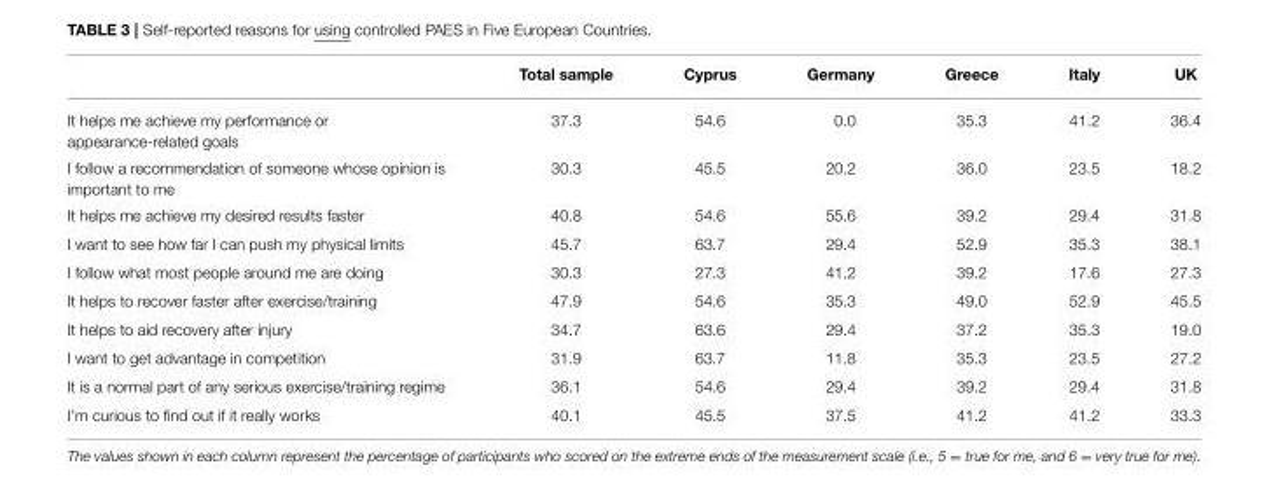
<table><thead><tr><td></td><td>Total sample</td><td>Cyprus</td><td>Germany</td><td>Greece</td><td>Italy</td><td>UK</td></tr></thead><tbody><tr><td>It helps me achieve my performance or appearance-related goals</td><td>37.3</td><td>54.6</td><td>0.0</td><td>35.3</td><td>41.2</td><td>36.4</td></tr><tr><td>I follow a recommendation of someone whose opinion is important to me</td><td>30.3</td><td>45.5</td><td>20.2</td><td>36.0</td><td>23.5</td><td>18.2</td></tr><tr><td>It helps me achieve my desired results faster</td><td>40.8</td><td>54.6</td><td>55.6</td><td>39.2</td><td>29.4</td><td>31.8</td></tr><tr><td>I want to see how far I can push my physical limits</td><td>45.7</td><td>63.7</td><td>29.4</td><td>52.9</td><td>35.3</td><td>38.1</td></tr><tr><td>I follow what most people around me are doing</td><td>30.3</td><td>27.3</td><td>41.2</td><td>39.2</td><td>17.6</td><td>27.3</td></tr><tr><td>It helps to recover faster after exercise/training</td><td>47.9</td><td>54.6</td><td>35.3</td><td>49.0</td><td>52.9</td><td>45.5</td></tr><tr><td>It helps to aid recovery after injury</td><td>34.7</td><td>63.6</td><td>29.4</td><td>37.2</td><td>35.3</td><td>19.0</td></tr><tr><td>I want to get advantage in competition</td><td>31.9</td><td>63.7</td><td>11.8</td><td>35.3</td><td>23.5</td><td>27.2</td></tr><tr><td>It is a normal part of any serious exercise/training regime</td><td>36.1</td><td>54.6</td><td>29.4</td><td>39.2</td><td>29.4</td><td>31.8</td></tr><tr><td>I’m curious to find out if it really works</td><td>40.1</td><td>45.5</td><td>37.5</td><td>41.2</td><td>41.2</td><td>33.3</td></tr></tbody></table>